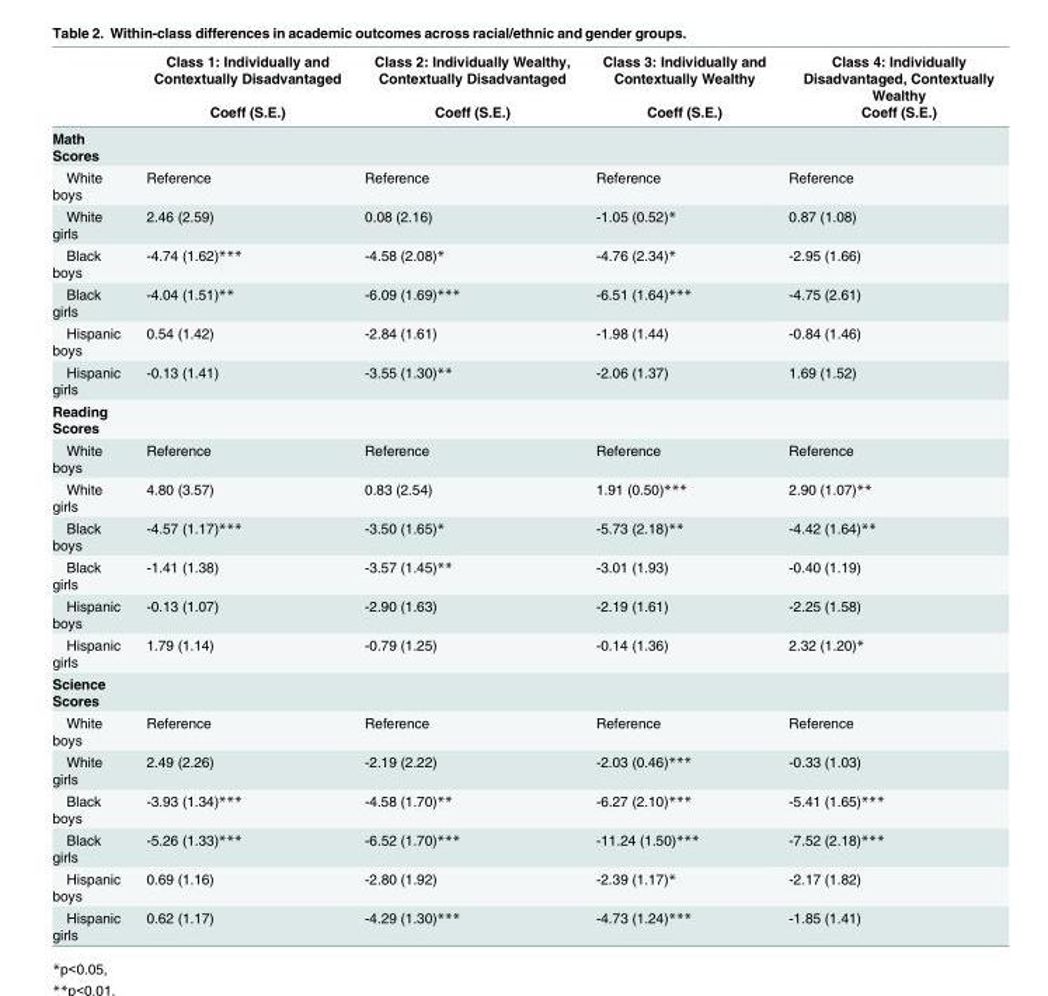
<table><thead><tr><td rowspan="2"></td><td rowspan="2">Class 1: Individually and Contextually Disadvantaged Coeff (S.E.)</td><td rowspan="2">Class 2: Individually Wealthy, Contextually Disadvantaged Coeff (S.E.)</td><td rowspan="2">Class 3: Individually and Contextually Wealthy Coeff (S.E.)</td><td rowspan="2">Class 4: Individually Disadvantaged, Contextually Wealthy Coeff (S.E.)</td></tr><tr></tr></thead><tbody><tr><td colspan="5">Math Scores</td></tr><tr><td>White boys</td><td>Reference</td><td>Reference</td><td>Reference</td><td>Reference</td></tr><tr><td>White girls</td><td>2.46 (2.59)</td><td>0.08 (2.16)</td><td>-1.05 (0.52)*</td><td>0.87 (1.08)</td></tr><tr><td>Black boys</td><td>-4.74 (1.62)***</td><td>-4.58 (2.08)*</td><td>-4.76 (2.34)*</td><td>-2.95 (1.66)</td></tr><tr><td>Black girls</td><td>-4.04 (1.51)**</td><td>-6.09 (1.69)***</td><td>-6.51 (1.64)***</td><td>-4.75 (2.61)</td></tr><tr><td>Hispanic boys</td><td>0.54 (1.42)</td><td>-2.84 (1.61)</td><td>-1.98 (1.44)</td><td>-0.84 (1.46)</td></tr><tr><td>Hispanic girls</td><td>-0.13 (1.41)</td><td>-3.55 (1.30)**</td><td>-2.06 (1.37)</td><td>1.69 (1.52)</td></tr><tr><td colspan="5">Reading Scores</td></tr><tr><td>White boys</td><td>Reference</td><td>Reference</td><td>Reference</td><td>Reference</td></tr><tr><td>White girls</td><td>4.80 (3.57)</td><td>0.83 (2.54)</td><td>1.91 (0.50)***</td><td>2.90 (1.07)**</td></tr><tr><td>Black boys</td><td>-4.57 (1.17)***</td><td>-3.50 (1.65)*</td><td>-5.73 (2.18)**</td><td>-4.42 (1.64)**</td></tr><tr><td>Black girls</td><td>-1.41 (1.38)</td><td>-3.57 (1.45)**</td><td>-3.01 (1.93)</td><td>-0.40 (1.19)</td></tr><tr><td>Hispanic boys</td><td>-0.13 (1.07)</td><td>-2.90 (1.63)</td><td>-2.19 (1.61)</td><td>-2.25 (1.58)</td></tr><tr><td>Hispanic girls</td><td>1.79 (1.14)</td><td>-0.79 (1.25)</td><td>-0.14 (1.36)</td><td>2.32 (1.20)*</td></tr><tr><td colspan="5">Science Scores</td></tr><tr><td>White boys</td><td>Reference</td><td>Reference</td><td>Reference</td><td>Reference</td></tr><tr><td>White girls</td><td>2.49 (2.26)</td><td>-2.19 (2.22)</td><td>-2.03 (0.46)***</td><td>-0.33 (1.03)</td></tr><tr><td>Black boys</td><td>-3.93 (1.34)***</td><td>-4.58 (1.70)**</td><td>-6.27 (2.10)***</td><td>-5.41 (1.65)***</td></tr><tr><td>Black girls</td><td>-5.26 (1.33)***</td><td>-6.52 (1.70)***</td><td>-11.24 (1.50)***</td><td>-7.52 (2.18)***</td></tr><tr><td>Hispanic boys</td><td>0.69 (1.16)</td><td>-2.80 (1.92)</td><td>-2.39 (1.17)*</td><td>-2.17 (1.82)</td></tr><tr><td>Hispanic girls</td><td>0.62 (1.17)</td><td>-4.29 (1.30)***</td><td>-4.73 (1.24)***</td><td>-1.85 (1.41)</td></tr></tbody></table>